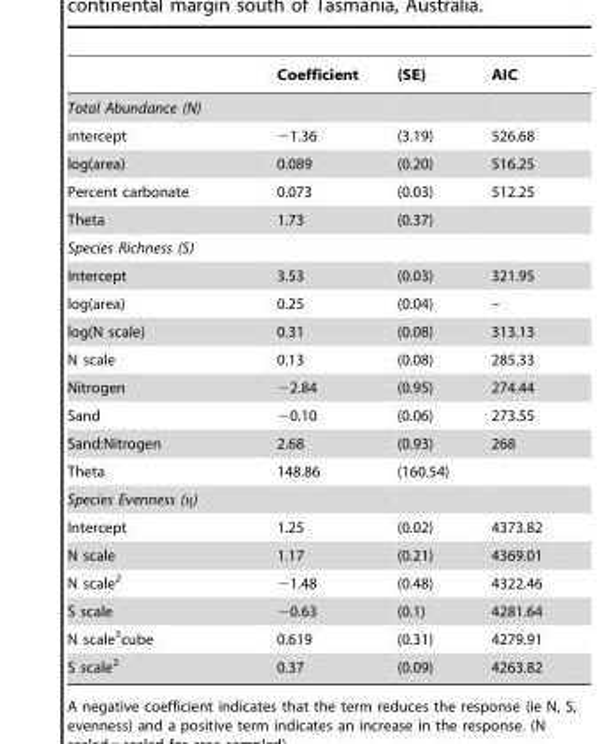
<table><thead><tr><td></td><td>Coefficient</td><td>(SE)</td><td>AIC</td></tr></thead><tbody><tr><td colspan="4">Total Abundance (N)</td></tr><tr><td>intercept</td><td>−1.36</td><td>(3.19)</td><td>526.68</td></tr><tr><td>log(area)</td><td>0.089</td><td>(0.20)</td><td>516.25</td></tr><tr><td>Percent carbonate</td><td>0.073</td><td>(0.03)</td><td>512.25</td></tr><tr><td>Theta</td><td>1.73</td><td>(0.37)</td><td></td></tr><tr><td colspan="4">Species Richness (S)</td></tr><tr><td>Intercept</td><td>3.53</td><td>(0.03)</td><td>321.95</td></tr><tr><td>log(area)</td><td>0.25</td><td>(0.04)</td><td>–</td></tr><tr><td>log(N scale)</td><td>0.31</td><td>(0.08)</td><td>313.13</td></tr><tr><td>N scale</td><td>0.13</td><td>(0.08)</td><td>285.33</td></tr><tr><td>Nitrogen</td><td>−2.84</td><td>(0.95)</td><td>274.44</td></tr><tr><td>Sand</td><td>−0.10</td><td>(0.06)</td><td>273.55</td></tr><tr><td>Sand:Nitrogen</td><td>2.68</td><td>(0.93)</td><td>268</td></tr><tr><td>Theta</td><td>148.86</td><td>(160.54)</td><td></td></tr><tr><td colspan="4">Species Evenness (η)</td></tr><tr><td>Intercept</td><td>1.25</td><td>(0.02)</td><td>4373.82</td></tr><tr><td>N scale</td><td>1.17</td><td>(0.21)</td><td>4369.01</td></tr><tr><td>N scale<sup>2</sup></td><td>−1.48</td><td>(0.48)</td><td>4322.46</td></tr><tr><td>S scale</td><td>−0.63</td><td>(0.1)</td><td>4281.64</td></tr><tr><td>N scale<sup>3</sup>cube</td><td>0.619</td><td>(0.31)</td><td>4279.91</td></tr><tr><td>S scale<sup>2</sup></td><td>0.37</td><td>(0.09)</td><td>4263.82</td></tr></tbody></table>